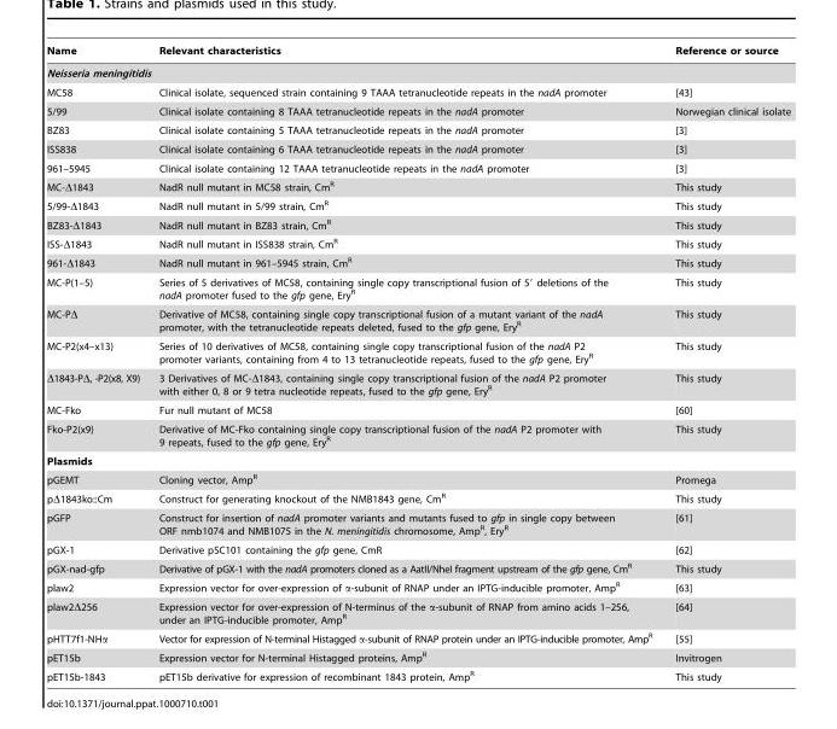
<table><thead><tr><td>Name</td><td>Relevant characteristics</td><td>Reference or source</td></tr></thead><tbody><tr><td colspan="3">Neisseria meningitidis</td></tr><tr><td>MC58</td><td>Clinical isolate, sequenced strain containing 9 TAAA tetranucleotide repeats in the nadA promoter</td><td>[43]</td></tr><tr><td>5/99</td><td>Clinical isolate containing 8 TAAA tetranucleotide repeats in the nadA promoter</td><td>Norwegian clinical isolate</td></tr><tr><td>BZ83</td><td>Clinical isolate containing 5 TAAA tetranucleotide repeats in the nadA promoter</td><td>[3]</td></tr><tr><td>ISS838</td><td>Clinical isolate containing 6 TAAA tetranucleotide repeats in the nadA promoter</td><td>[3]</td></tr><tr><td>961–5945</td><td>Clinical isolate containing 12 TAAA tetranucleotide repeats in the nadA promoter</td><td>[3]</td></tr><tr><td>MC-Δ1843</td><td>NadR null mutant in MC58 strain, Cm<sup>R</sup></td><td>This study</td></tr><tr><td>5/99-Δ1843</td><td>NadR null mutant in 5/99 strain, Cm<sup>R</sup></td><td>This study</td></tr><tr><td>BZ83-Δ1843</td><td>NadR null mutant in BZ83 strain, Cm<sup>R</sup></td><td>This study</td></tr><tr><td>ISS-Δ1843</td><td>NadR null mutant in ISS838 strain, Cm<sup>R</sup></td><td>This study</td></tr><tr><td>961-Δ1843</td><td>NadR null mutant in 961–5945 strain, Cm<sup>R</sup></td><td>This study</td></tr><tr><td>MC-P(1–5)</td><td>Series of 5 derivatives of MC58, containing single copy transcriptional fusion of 5′ deletions of the nadA promoter fused to the gfp gene, Ery<sup>R</sup></td><td>This study</td></tr><tr><td>MC-PΔ</td><td>Derivative of MC58, containing single copy transcriptional fusion of a mutant variant of the nadA promoter, with the tetranucleotide repeats deleted, fused to the gfp gene, Ery<sup>R</sup></td><td>This study</td></tr><tr><td>MC-P2(x4–x13)</td><td>Series of 10 derivatives of MC58, containing single copy transcriptional fusion of the nadA P2 promoter variants, containing from 4 to 13 tetranucleotide repeats, fused to the gfp gene, Ery<sup>R</sup></td><td>This study</td></tr><tr><td>Δ1843-PΔ, -P2(x8, X9)</td><td>3 Derivatives of MC-Δ1843, containing single copy transcriptional fusion of the nadA P2 promoter with either 0, 8 or 9 tetra nucleotide repeats, fused to the gfp gene, Ery<sup>R</sup></td><td>This study</td></tr><tr><td>MC-Fko</td><td>Fur null mutant of MC58</td><td>[60]</td></tr><tr><td>Fko-P2(x9)</td><td>Derivative of MC-Fko containing single copy transcriptional fusion of the nadA P2 promoter with 9 repeats, fused to the gfp gene, Ery<sup>R</sup></td><td>This study</td></tr><tr><td colspan="3">Plasmids</td></tr><tr><td>pGEMT</td><td>Cloning vector, Amp<sup>R</sup></td><td>Promega</td></tr><tr><td>pΔ1843ko::Cm</td><td>Construct for generating knockout of the NMB1843 gene, Cm<sup>R</sup></td><td>This study</td></tr><tr><td>pGFP</td><td>Construct for insertion of nadA promoter variants and mutants fused to gfp in single copy between ORF nmb1074 and NMB1075 in the N. meningitidis chromosome, Amp<sup>R</sup>, Ery<sup>R</sup></td><td>[61]</td></tr><tr><td>pGX-1</td><td>Derivative pSC101 containing the gfp gene, CmR</td><td>[62]</td></tr><tr><td>pGX-nad-gfp</td><td>Derivative of pGX-1 with the nadA promoters cloned as a AatII/NheI fragment upstream of the gfp gene, Cm<sup>R</sup></td><td>This study</td></tr><tr><td>plaw2</td><td>Expression vector for over-expression of α-subunit of RNAP under an IPTG-inducible promoter, Amp<sup>R</sup></td><td>[63]</td></tr><tr><td>plaw2Δ256</td><td>Expression vector for over-expression of N-terminus of the α-subunit of RNAP from amino acids 1–256, under an IPTG-inducible promoter, Amp<sup>R</sup></td><td>[64]</td></tr><tr><td>pHTT7f1-NHα</td><td>Vector for expression of N-terminal Histagged α-subunit of RNAP protein under an IPTG-inducible promoter, Amp<sup>R</sup></td><td>[55]</td></tr><tr><td>pET15b</td><td>Expression vector for N-terminal Histagged proteins, Amp<sup>R</sup></td><td>Invitrogen</td></tr><tr><td>pET15b-1843</td><td>pET15b derivative for expression of recombinant 1843 protein, Amp<sup>R</sup></td><td>This study</td></tr></tbody></table>